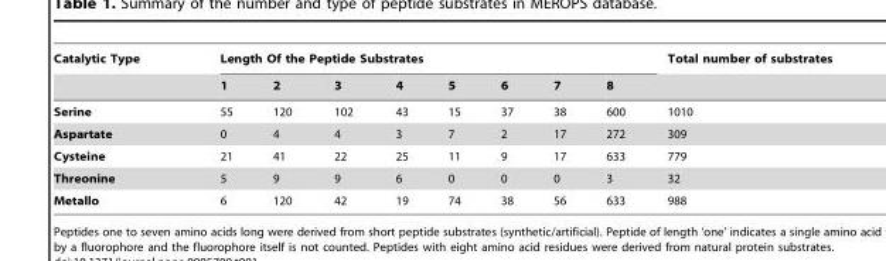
<table><thead><tr><td rowspan="2">Catalytic Type</td><td colspan="8">Length Of the Peptide Substrates</td><td rowspan="2">Total number of substrates</td></tr><tr><td>1</td><td>2</td><td>3</td><td>4</td><td>5</td><td>6</td><td>7</td><td>8</td></tr></thead><tbody><tr><td>Serine</td><td>55</td><td>120</td><td>102</td><td>43</td><td>15</td><td>37</td><td>38</td><td>600</td><td>1010</td></tr><tr><td>Aspartate</td><td>0</td><td>4</td><td>4</td><td>3</td><td>7</td><td>2</td><td>17</td><td>272</td><td>309</td></tr><tr><td>Cysteine</td><td>21</td><td>41</td><td>22</td><td>25</td><td>11</td><td>9</td><td>17</td><td>633</td><td>779</td></tr><tr><td>Threonine</td><td>5</td><td>9</td><td>9</td><td>6</td><td>0</td><td>0</td><td>0</td><td>3</td><td>32</td></tr><tr><td>Metallo</td><td>6</td><td>120</td><td>42</td><td>19</td><td>74</td><td>38</td><td>56</td><td>633</td><td>988</td></tr></tbody></table>